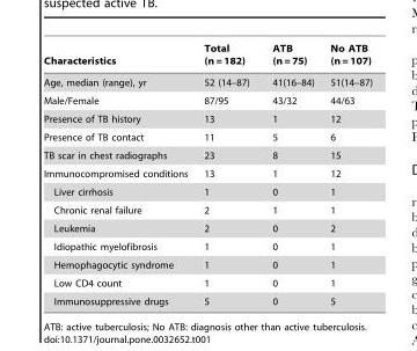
<table><thead><tr><td>Characteristics</td><td>Total (n = 182)</td><td>ATB (n = 75)</td><td>No ATB (n = 107)</td></tr></thead><tbody><tr><td>Age, median (range), yr</td><td>52 (14–87)</td><td>41(16–84)</td><td>51(14–87)</td></tr><tr><td>Male/Female</td><td>87/95</td><td>43/32</td><td>44/63</td></tr><tr><td>Presence of TB history</td><td>13</td><td>1</td><td>12</td></tr><tr><td>Presence of TB contact</td><td>11</td><td>5</td><td>6</td></tr><tr><td>TB scar in chest radiographs</td><td>23</td><td>8</td><td>15</td></tr><tr><td>Immunocompromised conditions</td><td>13</td><td>1</td><td>12</td></tr><tr><td>Liver cirrhosis</td><td>1</td><td>0</td><td>1</td></tr><tr><td>Chronic renal failure</td><td>2</td><td>1</td><td>1</td></tr><tr><td>Leukemia</td><td>2</td><td>0</td><td>2</td></tr><tr><td>Idiopathic myelofibrosis</td><td>1</td><td>0</td><td>1</td></tr><tr><td>Hemophagocytic syndrome</td><td>1</td><td>0</td><td>1</td></tr><tr><td>Low CD4 count</td><td>1</td><td>0</td><td>1</td></tr><tr><td>Immunosuppressive drugs</td><td>5</td><td>0</td><td>5</td></tr></tbody></table>